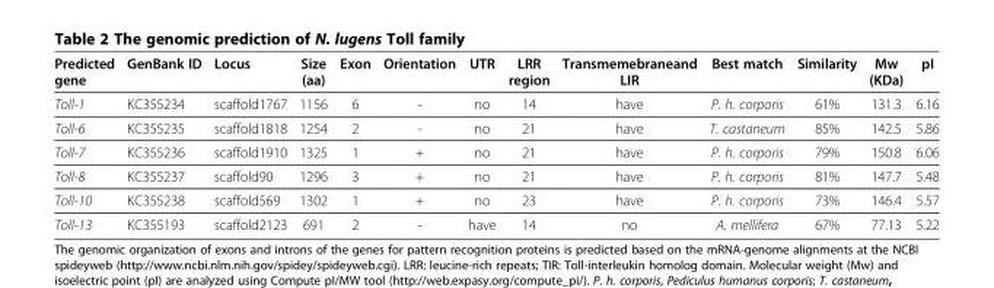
<table><thead><tr><td>Predicted gene</td><td>GenBank ID</td><td>Locus</td><td>Size (aa)</td><td>Exon</td><td>Orientation</td><td>UTR</td><td>LRR region</td><td>Transmemebraneand LIR</td><td>Best match</td><td>Similarity</td><td>Mw (KDa)</td><td>pI</td></tr></thead><tbody><tr><td>Toll-1</td><td>KC355234</td><td>scaffold1767</td><td>1156</td><td>6</td><td>-</td><td>no</td><td>14</td><td>have</td><td>P. h. corporis</td><td>61%</td><td>131.3</td><td>6.16</td></tr><tr><td>Toll-6</td><td>KC355235</td><td>scaffold1818</td><td>1254</td><td>2</td><td>-</td><td>no</td><td>21</td><td>have</td><td>T. castaneum</td><td>85%</td><td>142.5</td><td>5.86</td></tr><tr><td>Toll-7</td><td>KC355236</td><td>scaffold1910</td><td>1325</td><td>1</td><td>+</td><td>no</td><td>21</td><td>have</td><td>P. h. corporis</td><td>79%</td><td>150.8</td><td>6.06</td></tr><tr><td>Toll-8</td><td>KC355237</td><td>scaffold90</td><td>1296</td><td>3</td><td>+</td><td>no</td><td>21</td><td>have</td><td>P. h. corporis</td><td>81%</td><td>147.7</td><td>5.48</td></tr><tr><td>Toll-10</td><td>KC355238</td><td>scaffold569</td><td>1302</td><td>1</td><td>+</td><td>no</td><td>23</td><td>have</td><td>P. h. corporis</td><td>73%</td><td>146.4</td><td>5.57</td></tr><tr><td>Toll-13</td><td>KC355193</td><td>scaffold2123</td><td>691</td><td>2</td><td>-</td><td>have</td><td>14</td><td>no</td><td>A. mellifera</td><td>67%</td><td>77.13</td><td>5.22</td></tr></tbody></table>